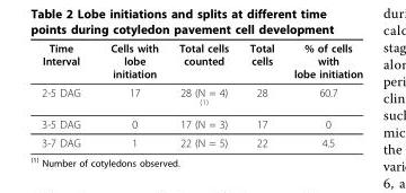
<table><thead><tr><td>Time Interval</td><td>Cells with lobe initiation</td><td>Total cells counted</td><td>Total cells</td><td>% of cells with lobe initiation</td></tr></thead><tbody><tr><td>2-5 DAG</td><td>17</td><td>28 (N = 4) <sup>(1)</sup></td><td>28</td><td>60.7</td></tr><tr><td>3-5 DAG</td><td>0</td><td>17 (N = 3)</td><td>17</td><td>0</td></tr><tr><td>3-7 DAG</td><td>1</td><td>22 (N = 5)</td><td>22</td><td>4.5</td></tr></tbody></table>